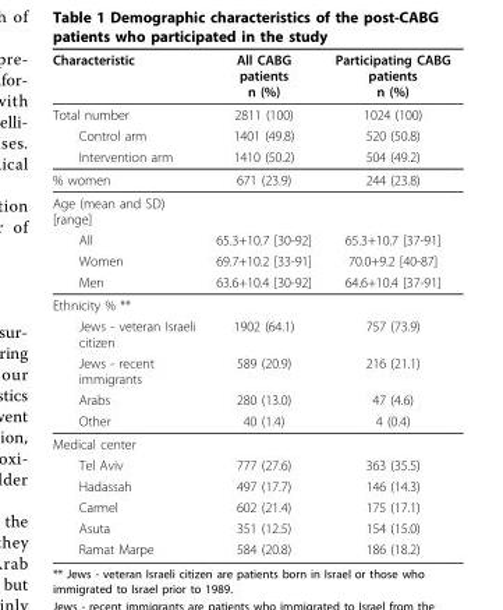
<table><thead><tr><td>Characteristic</td><td>All CABG patients n (%)</td><td>Participating CABG patients n (%)</td></tr></thead><tbody><tr><td>Total number</td><td>2811 (100)</td><td>1024 (100)</td></tr><tr><td>Control arm</td><td>1401 (49.8)</td><td>520 (50.8)</td></tr><tr><td>Intervention arm</td><td>1410 (50.2)</td><td>504 (49.2)</td></tr><tr><td>% women</td><td>671 (23.9)</td><td>244 (23.8)</td></tr><tr><td colspan="3">Age (mean and SD) [range]</td></tr><tr><td>All</td><td>65.3+10.7 [30-92]</td><td>65.3+10.7 [37-91]</td></tr><tr><td>Women</td><td>69.7+10.2 [33-91]</td><td>70.0+9.2 [40-87]</td></tr><tr><td>Men</td><td>63.6+10.4 [30-92]</td><td>64.6+10.4 [37-91]</td></tr><tr><td colspan="3">Ethnicity % **</td></tr><tr><td>Jews - veteran Israeli citizen</td><td>1902 (64.1)</td><td>757 (73.9)</td></tr><tr><td>Jews - recent immigrants</td><td>589 (20.9)</td><td>216 (21.1)</td></tr><tr><td>Arabs</td><td>280 (13.0)</td><td>47 (4.6)</td></tr><tr><td>Other</td><td>40 (1.4)</td><td>4 (0.4)</td></tr><tr><td colspan="3">Medical center</td></tr><tr><td>Tel Aviv</td><td>777 (27.6)</td><td>363 (35.5)</td></tr><tr><td>Hadassah</td><td>497 (17.7)</td><td>146 (14.3)</td></tr><tr><td>Carmel</td><td>602 (21.4)</td><td>175 (17.1)</td></tr><tr><td>Asuta</td><td>351 (12.5)</td><td>154 (15.0)</td></tr><tr><td>Ramat Marpe</td><td>584 (20.8)</td><td>186 (18.2)</td></tr></tbody></table>